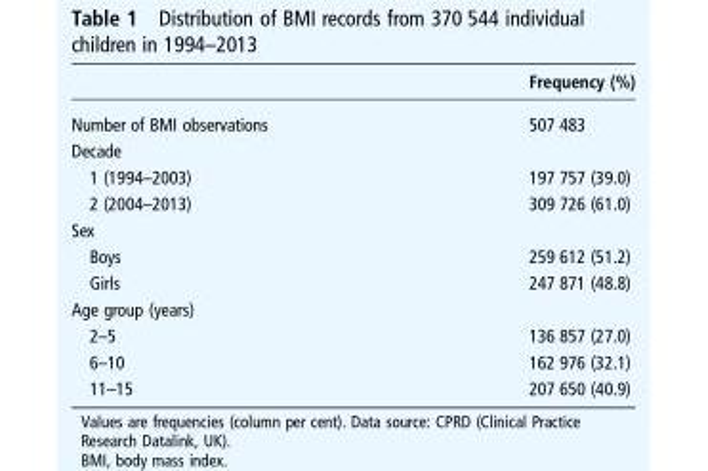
<table><thead><tr><td></td><td>Frequency (%)</td></tr></thead><tbody><tr><td>Number of BMI observations</td><td>507 483</td></tr><tr><td colspan="2">Decade</td></tr><tr><td>1 (1994–2003)</td><td>197 757 (39.0)</td></tr><tr><td>2 (2004–2013)</td><td>309 726 (61.0)</td></tr><tr><td colspan="2">Sex</td></tr><tr><td>Boys</td><td>259 612 (51.2)</td></tr><tr><td>Girls</td><td>247 871 (48.8)</td></tr><tr><td colspan="2">Age group (years)</td></tr><tr><td>2–5</td><td>136 857 (27.0)</td></tr><tr><td>6–10</td><td>162 976 (32.1)</td></tr><tr><td>11–15</td><td>207 650 (40.9)</td></tr></tbody></table>